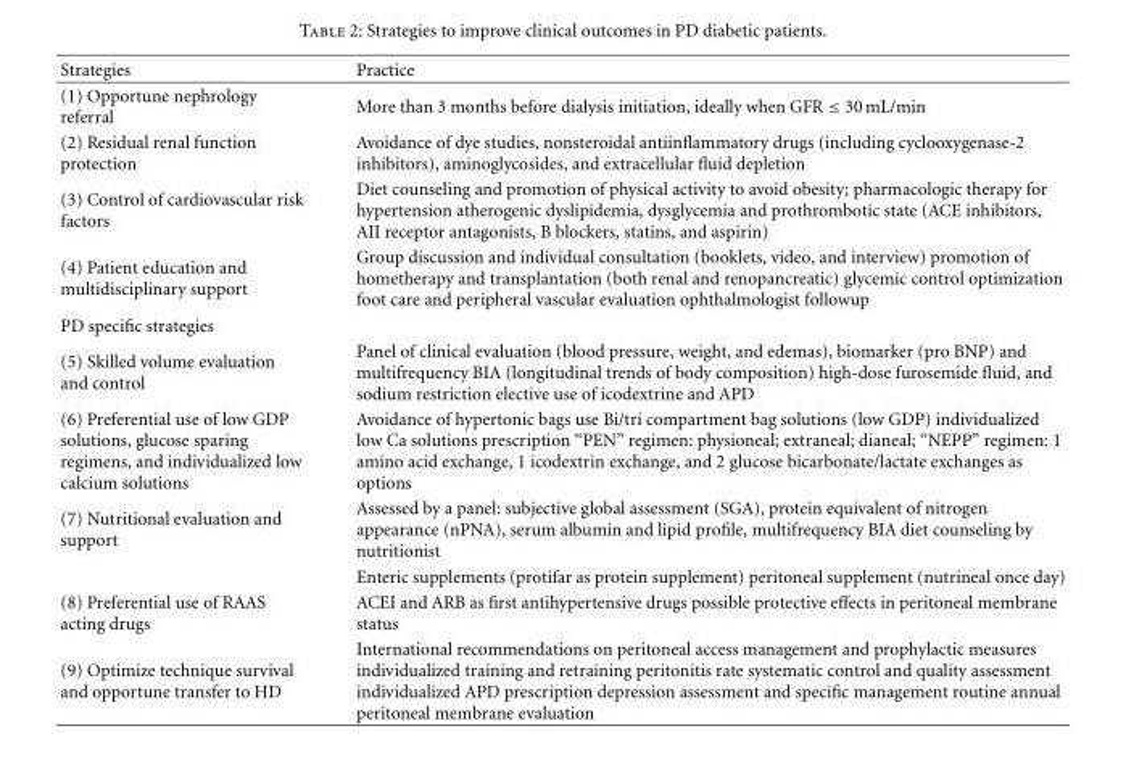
<table><thead><tr><td>Strategies</td><td>Practice</td></tr></thead><tbody><tr><td>(1) Opportune nephrology referral</td><td>More than 3 months before dialysis initiation, ideally when GFR ≤ 30 mL/min</td></tr><tr><td>(2) Residual renal function protection</td><td>Avoidance of dye studies, nonsteroidal antiinflammatory drugs (including cyclooxygenase-2 inhibitors), aminoglycosides, and extracellular fluid depletion</td></tr><tr><td>(3) Control of cardiovascular risk factors</td><td>Diet counseling and promotion of physical activity to avoid obesity; pharmacologic therapy for hypertension atherogenic dyslipidemia, dysglycemia and prothrombotic state (ACE inhibitors, AII receptor antagonists, B blockers, statins, and aspirin)</td></tr><tr><td>(4) Patient education and multidisciplinary support</td><td>Group discussion and individual consultation (booklets, video, and interview) promotion of hometherapy and transplantation (both renal and renopancreatic) glycemic control optimization foot care and peripheral vascular evaluation ophthalmologist followup</td></tr><tr><td colspan="2">PD specific strategies</td></tr><tr><td>(5) Skilled volume evaluation and control</td><td>Panel of clinical evaluation (blood pressure, weight, and edemas), biomarker (pro BNP) and multifrequency BIA (longitudinal trends of body composition) high-dose furosemide fluid, and sodium restriction elective use of icodextrine and APD</td></tr><tr><td>(6) Preferential use of low GDP solutions, glucose sparing regimens, and individualized low calcium solutions</td><td>Avoidance of hypertonic bags use Bi/tri compartment bag solutions (low GDP) individualized low Ca solutions prescription “PEN” regimen: physioneal; extraneal; dianeal; “NEPP” regimen: 1 amino acid exchange, 1 icodextrin exchange, and 2 glucose bicarbonate/lactate exchanges as options</td></tr><tr><td rowspan="2">(7) Nutritional evaluation and support</td><td>Assessed by a panel: subjective global assessment (SGA), protein equivalent of nitrogen appearance (nPNA), serum albumin and lipid profile, multifrequency BIA diet counseling by nutritionist</td></tr><tr><td>Enteric supplements (protifar as protein supplement) peritoneal supplement (nutrineal once day)</td></tr><tr><td>(8) Preferential use of RAAS acting drugs</td><td>ACEI and ARB as first antihypertensive drugs possible protective effects in peritoneal membrane status</td></tr><tr><td>(9) Optimize technique survival and opportune transfer to HD</td><td>International recommendations on peritoneal access management and prophylactic measures individualized training and retraining peritonitis rate systematic control and quality assessment individualized APD prescription depression assessment and specific management routine annual peritoneal membrane evaluation</td></tr></tbody></table>